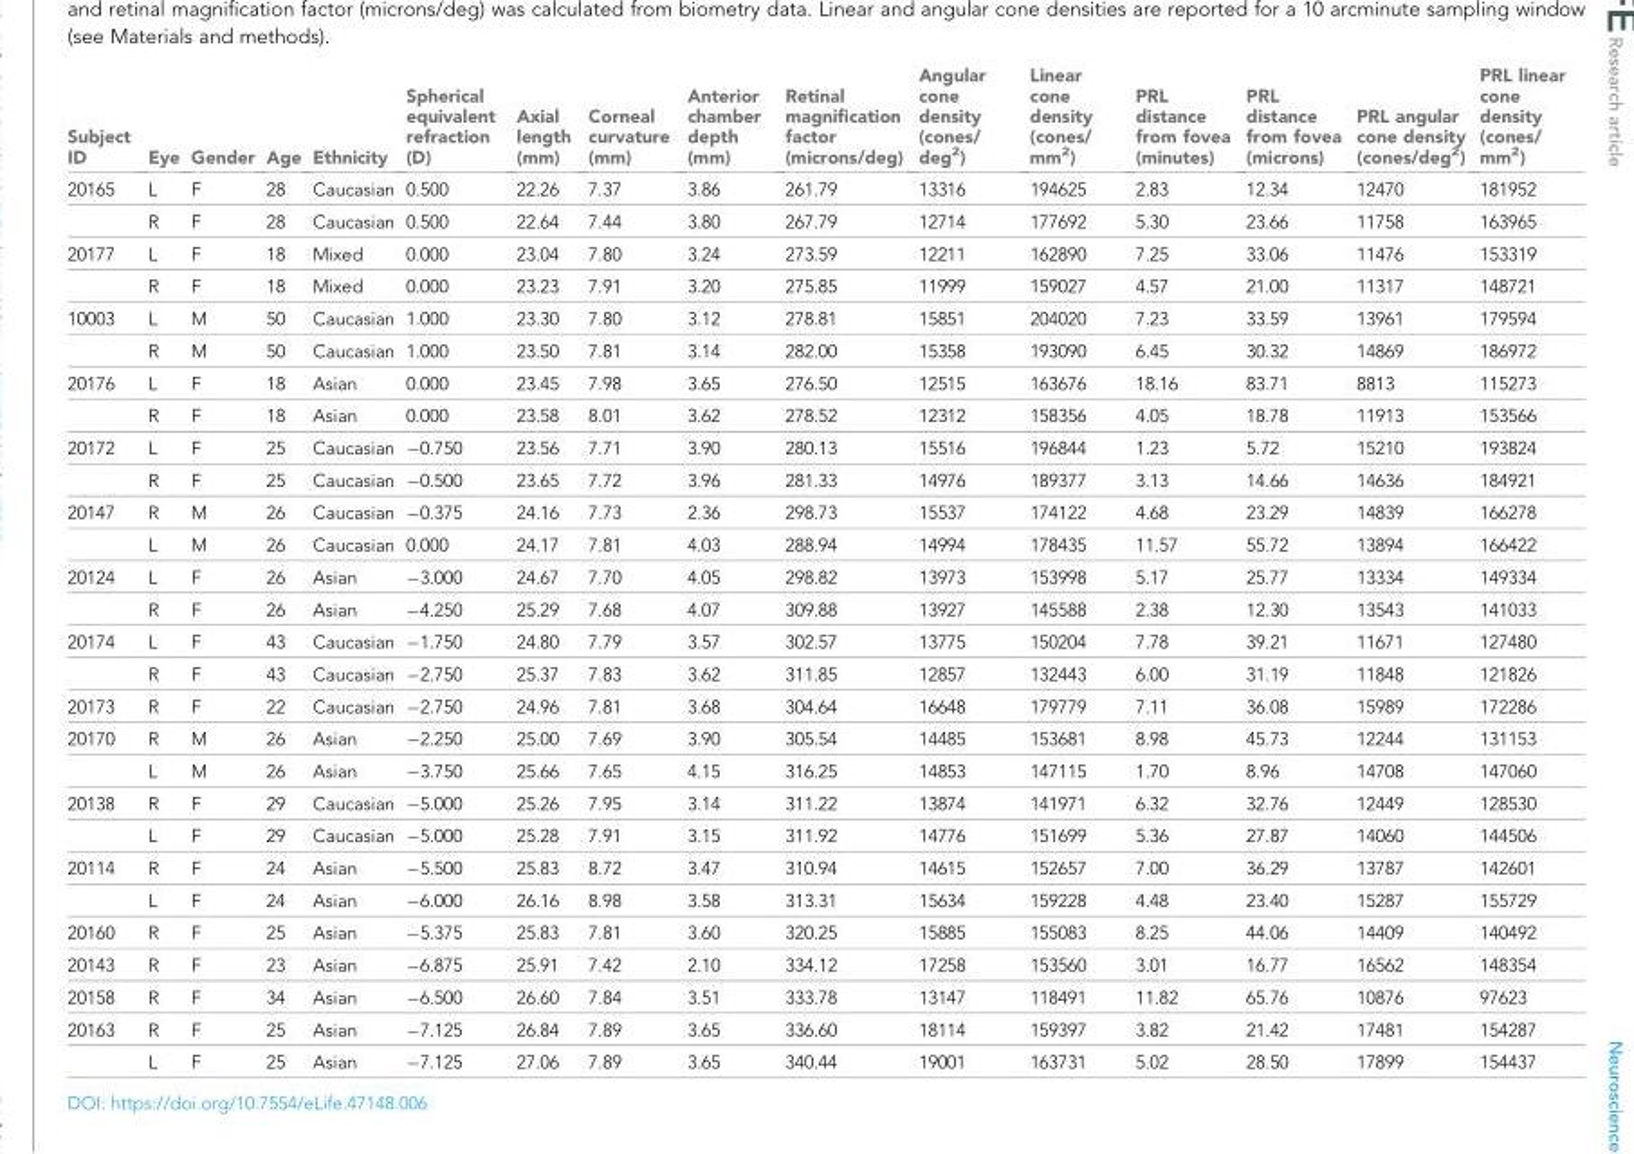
<table><thead><tr><td>Subject ID</td><td>Eye</td><td>Gender</td><td>Age</td><td>Ethnicity</td><td>Spherical equivalent refraction (D)</td><td>Axial length (mm)</td><td>Corneal curvature (mm)</td><td>Anterior chamber depth (mm)</td><td>Retinal magnification factor (microns/deg)</td><td>Angular cone density (cones/ deg<sup>2</sup>)</td><td>Linear cone density (cones/ mm<sup>2</sup>)</td><td>PRL distance from fovea (minutes)</td><td>PRL distance from fovea (microns)</td><td>PRL angular cone density (cones/deg<sup>2</sup>)</td><td>PRL linear cone density (cones/ mm<sup>2</sup>)</td></tr></thead><tbody><tr><td rowspan="2">20165</td><td>L</td><td>F</td><td>28</td><td>Caucasian</td><td>0.500</td><td>22.26</td><td>7.37</td><td>3.86</td><td>261.79</td><td>13316</td><td>194625</td><td>2.83</td><td>12.34</td><td>12470</td><td>181952</td></tr><tr><td>R</td><td>F</td><td>28</td><td>Caucasian</td><td>0.500</td><td>22.64</td><td>7.44</td><td>3.80</td><td>267.79</td><td>12714</td><td>177692</td><td>5.30</td><td>23.66</td><td>11758</td><td>163965</td></tr><tr><td rowspan="2">20177</td><td>L</td><td>F</td><td>18</td><td>Mixed</td><td>0.000</td><td>23.04</td><td>7.80</td><td>3.24</td><td>273.59</td><td>12211</td><td>162890</td><td>7.25</td><td>33.06</td><td>11476</td><td>153319</td></tr><tr><td>R</td><td>F</td><td>18</td><td>Mixed</td><td>0.000</td><td>23.23</td><td>7.91</td><td>3.20</td><td>275.85</td><td>11999</td><td>159027</td><td>4.57</td><td>21.00</td><td>11317</td><td>148721</td></tr><tr><td rowspan="2">10003</td><td>L</td><td>M</td><td>50</td><td>Caucasian</td><td>1.000</td><td>23.30</td><td>7.80</td><td>3.12</td><td>278.81</td><td>15851</td><td>204020</td><td>7.23</td><td>33.59</td><td>13961</td><td>179594</td></tr><tr><td>R</td><td>M</td><td>50</td><td>Caucasian</td><td>1.000</td><td>23.50</td><td>7.81</td><td>3.14</td><td>282.00</td><td>15358</td><td>193090</td><td>6.45</td><td>30.32</td><td>14869</td><td>186972</td></tr><tr><td rowspan="2">20176</td><td>L</td><td>F</td><td>18</td><td>Asian</td><td>0.000</td><td>23.45</td><td>7.98</td><td>3.65</td><td>276.50</td><td>12515</td><td>163676</td><td>18.16</td><td>83.71</td><td>8813</td><td>115273</td></tr><tr><td>R</td><td>F</td><td>18</td><td>Asian</td><td>0.000</td><td>23.58</td><td>8.01</td><td>3.62</td><td>278.52</td><td>12312</td><td>158356</td><td>4.05</td><td>18.78</td><td>11913</td><td>153566</td></tr><tr><td rowspan="2">20172</td><td>L</td><td>F</td><td>25</td><td>Caucasian</td><td>−0.750</td><td>23.56</td><td>7.71</td><td>3.90</td><td>280.13</td><td>15516</td><td>196844</td><td>1.23</td><td>5.72</td><td>15210</td><td>193824</td></tr><tr><td>R</td><td>F</td><td>25</td><td>Caucasian</td><td>−0.500</td><td>23.65</td><td>7.72</td><td>3.96</td><td>281.33</td><td>14976</td><td>189377</td><td>3.13</td><td>14.66</td><td>14636</td><td>184921</td></tr><tr><td rowspan="2">20147</td><td>R</td><td>M</td><td>26</td><td>Caucasian</td><td>−0.375</td><td>24.16</td><td>7.73</td><td>2.36</td><td>298.73</td><td>15537</td><td>174122</td><td>4.68</td><td>23.29</td><td>14839</td><td>166278</td></tr><tr><td>L</td><td>M</td><td>26</td><td>Caucasian</td><td>0.000</td><td>24.17</td><td>7.81</td><td>4.03</td><td>288.94</td><td>14994</td><td>178435</td><td>11.57</td><td>55.72</td><td>13894</td><td>166422</td></tr><tr><td rowspan="2">20124</td><td>L</td><td>F</td><td>26</td><td>Asian</td><td>−3.000</td><td>24.67</td><td>7.70</td><td>4.05</td><td>298.82</td><td>13973</td><td>153998</td><td>5.17</td><td>25.77</td><td>13334</td><td>149334</td></tr><tr><td>R</td><td>F</td><td>26</td><td>Asian</td><td>−4.250</td><td>25.29</td><td>7.68</td><td>4.07</td><td>309.88</td><td>13927</td><td>145588</td><td>2.38</td><td>12.30</td><td>13543</td><td>141033</td></tr><tr><td rowspan="2">20174</td><td>L</td><td>F</td><td>43</td><td>Caucasian</td><td>−1.750</td><td>24.80</td><td>7.79</td><td>3.57</td><td>302.57</td><td>13775</td><td>150204</td><td>7.78</td><td>39.21</td><td>11671</td><td>127480</td></tr><tr><td>R</td><td>F</td><td>43</td><td>Caucasian</td><td>−2.750</td><td>25.37</td><td>7.83</td><td>3.62</td><td>311.85</td><td>12857</td><td>132443</td><td>6.00</td><td>31.19</td><td>11848</td><td>121826</td></tr><tr><td>20173</td><td>R</td><td>F</td><td>22</td><td>Caucasian</td><td>−2.750</td><td>24.96</td><td>7.81</td><td>3.68</td><td>304.64</td><td>16648</td><td>179779</td><td>7.11</td><td>36.08</td><td>15989</td><td>172286</td></tr><tr><td rowspan="2">20170</td><td>R</td><td>M</td><td>26</td><td>Asian</td><td>−2.250</td><td>25.00</td><td>7.69</td><td>3.90</td><td>305.54</td><td>14485</td><td>153681</td><td>8.98</td><td>45.73</td><td>12244</td><td>131153</td></tr><tr><td>L</td><td>M</td><td>26</td><td>Asian</td><td>−3.750</td><td>25.66</td><td>7.65</td><td>4.15</td><td>316.25</td><td>14853</td><td>147115</td><td>1.70</td><td>8.96</td><td>14708</td><td>147060</td></tr><tr><td rowspan="2">20138</td><td>R</td><td>F</td><td>29</td><td>Caucasian</td><td>−5.000</td><td>25.26</td><td>7.95</td><td>3.14</td><td>311.22</td><td>13874</td><td>141971</td><td>6.32</td><td>32.76</td><td>12449</td><td>128530</td></tr><tr><td>L</td><td>F</td><td>29</td><td>Caucasian</td><td>−5.000</td><td>25.28</td><td>7.91</td><td>3.15</td><td>311.92</td><td>14776</td><td>151699</td><td>5.36</td><td>27.87</td><td>14060</td><td>144506</td></tr><tr><td rowspan="2">20114</td><td>R</td><td>F</td><td>24</td><td>Asian</td><td>−5.500</td><td>25.83</td><td>8.72</td><td>3.47</td><td>310.94</td><td>14615</td><td>152657</td><td>7.00</td><td>36.29</td><td>13787</td><td>142601</td></tr><tr><td>L</td><td>F</td><td>24</td><td>Asian</td><td>−6.000</td><td>26.16</td><td>8.98</td><td>3.58</td><td>313.31</td><td>15634</td><td>159228</td><td>4.48</td><td>23.40</td><td>15287</td><td>155729</td></tr><tr><td>20160</td><td>R</td><td>F</td><td>25</td><td>Asian</td><td>−5.375</td><td>25.83</td><td>7.81</td><td>3.60</td><td>320.25</td><td>15885</td><td>155083</td><td>8.25</td><td>44.06</td><td>14409</td><td>140492</td></tr><tr><td>20143</td><td>R</td><td>F</td><td>23</td><td>Asian</td><td>−6.875</td><td>25.91</td><td>7.42</td><td>2.10</td><td>334.12</td><td>17258</td><td>153560</td><td>3.01</td><td>16.77</td><td>16562</td><td>148354</td></tr><tr><td>20158</td><td>R</td><td>F</td><td>34</td><td>Asian</td><td>−6.500</td><td>26.60</td><td>7.84</td><td>3.51</td><td>333.78</td><td>13147</td><td>118491</td><td>11.82</td><td>65.76</td><td>10876</td><td>97623</td></tr><tr><td rowspan="2">20163</td><td>R</td><td>F</td><td>25</td><td>Asian</td><td>−7.125</td><td>26.84</td><td>7.89</td><td>3.65</td><td>336.60</td><td>18114</td><td>159397</td><td>3.82</td><td>21.42</td><td>17481</td><td>154287</td></tr><tr><td>L</td><td>F</td><td>25</td><td>Asian</td><td>−7.125</td><td>27.06</td><td>7.89</td><td>3.65</td><td>340.44</td><td>19001</td><td>163731</td><td>5.02</td><td>28.50</td><td>17899</td><td>154437</td></tr></tbody></table>